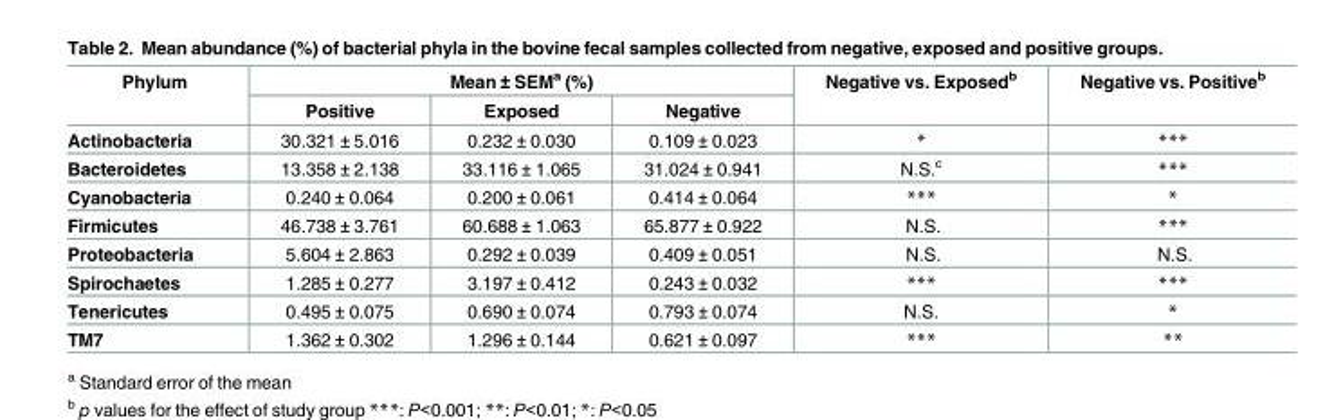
<table><thead><tr><td rowspan="2">Phylum</td><td colspan="3">Mean ± SEM<sup>a</sup> (%)</td><td rowspan="2">Negative vs. Exposed<sup>b</sup></td><td rowspan="2">Negative vs. Positive<sup>b</sup></td></tr><tr><td>Positive</td><td>Exposed</td><td>Negative</td></tr></thead><tbody><tr><td>Actinobacteria</td><td>30.321 ± 5.016</td><td>0.232 ± 0.030</td><td>0.109 ± 0.023</td><td>*</td><td>***</td></tr><tr><td>Bacteroidetes</td><td>13.358 ± 2.138</td><td>33.116 ± 1.065</td><td>31.024 ± 0.941</td><td>N.S.<sup>c</sup></td><td>***</td></tr><tr><td>Cyanobacteria</td><td>0.240 ± 0.064</td><td>0.200 ± 0.061</td><td>0.414 ± 0.064</td><td>***</td><td>*</td></tr><tr><td>Firmicutes</td><td>46.738 ± 3.761</td><td>60.688 ± 1.063</td><td>65.877 ± 0.922</td><td>N.S.</td><td>***</td></tr><tr><td>Proteobacteria</td><td>5.604 ± 2.863</td><td>0.292 ± 0.039</td><td>0.409 ± 0.051</td><td>N.S.</td><td>N.S.</td></tr><tr><td>Spirochaetes</td><td>1.285 ± 0.277</td><td>3.197 ± 0.412</td><td>0.243 ± 0.032</td><td>***</td><td>***</td></tr><tr><td>Tenericutes</td><td>0.495 ± 0.075</td><td>0.690 ± 0.074</td><td>0.793 ± 0.074</td><td>N.S.</td><td>*</td></tr><tr><td>TM7</td><td>1.362 ± 0.302</td><td>1.296 ± 0.144</td><td>0.621 ± 0.097</td><td>***</td><td>**</td></tr></tbody></table>